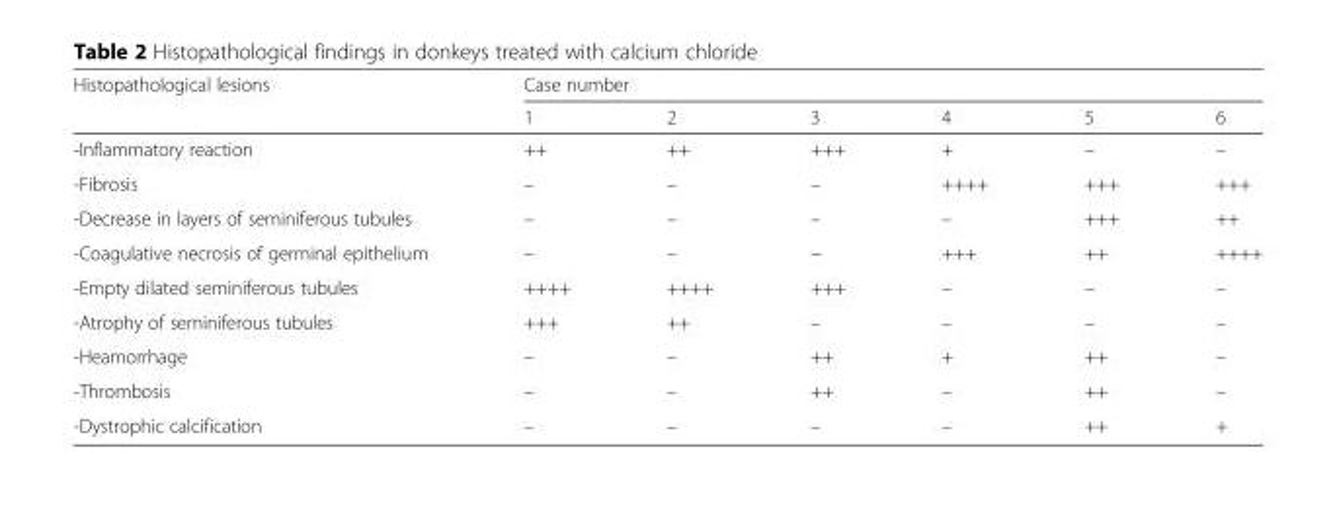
<table><thead><tr><td rowspan="2">Histopathological lesions</td><td colspan="6">Case number</td></tr><tr><td>1</td><td>2</td><td>3</td><td>4</td><td>5</td><td>6</td></tr></thead><tbody><tr><td>-Inflammatory reaction</td><td>++</td><td>++</td><td>+++</td><td>+</td><td>–</td><td>–</td></tr><tr><td>-Fibrosis</td><td>–</td><td>–</td><td>–</td><td>++++</td><td>+++</td><td>+++</td></tr><tr><td>-Decrease in layers of seminiferous tubules</td><td>–</td><td>–</td><td>–</td><td>–</td><td>+++</td><td>++</td></tr><tr><td>-Coagulative necrosis of germinal epithelium</td><td>–</td><td>–</td><td>−</td><td>+++</td><td>++</td><td>++++</td></tr><tr><td>-Empty dilated seminiferous tubules</td><td>++++</td><td>++++</td><td>+++</td><td>–</td><td>–</td><td>–</td></tr><tr><td>-Atrophy of seminiferous tubules</td><td>+++</td><td>++</td><td>–</td><td>–</td><td>–</td><td>–</td></tr><tr><td>-Heamorrhage</td><td>–</td><td>–</td><td>++</td><td>+</td><td>++</td><td>–</td></tr><tr><td>-Thrombosis</td><td>–</td><td>–</td><td>++</td><td>–</td><td>++</td><td>–</td></tr><tr><td>-Dystrophic calcification</td><td>–</td><td>–</td><td>–</td><td>–</td><td>++</td><td>+</td></tr></tbody></table>